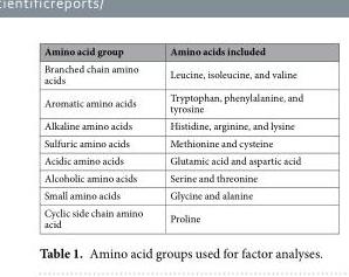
<table><thead><tr><td>Amino acid group</td><td>Amino acids included</td></tr></thead><tbody><tr><td>Branched chain amino acids</td><td>Leucine, isoleucine, and valine</td></tr><tr><td>Aromatic amino acids</td><td>Tryptophan, phenylalanine, and tyrosine</td></tr><tr><td>Alkaline amino acids</td><td>Histidine, arginine, and lysine</td></tr><tr><td>Sulfuric amino acids</td><td>Methionine and cysteine</td></tr><tr><td>Acidic amino acids</td><td>Glutamic acid and aspartic acid</td></tr><tr><td>Alcoholic amino acids</td><td>Serine and threonine</td></tr><tr><td>Small amino acids</td><td>Glycine and alanine</td></tr><tr><td>Cyclic side chain amino acid</td><td>Proline</td></tr></tbody></table>